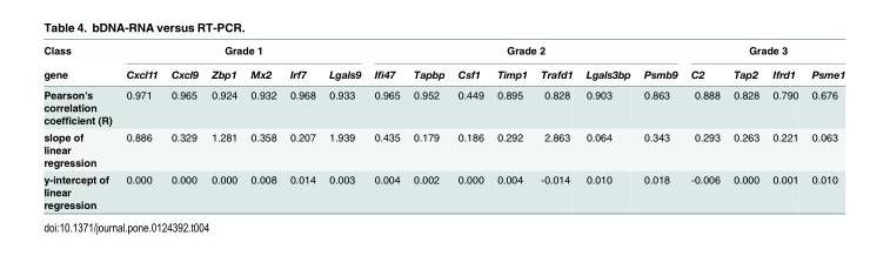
<table><thead><tr><td rowspan="2">Class gene</td><td colspan="6">Grade 1</td><td colspan="7">Grade 2</td><td colspan="4">Grade 3</td></tr><tr><td>Cxcl11</td><td>Cxcl9</td><td>Zbp1</td><td>Mx2</td><td>Irf7</td><td>Lgals9</td><td>Ifi47</td><td>Tapbp</td><td>Csf1</td><td>Timp1</td><td>Trafd1</td><td>Lgals3bp</td><td>Psmb9</td><td>C2</td><td>Tap2</td><td>Ifrd1</td><td>Psme1</td></tr></thead><tbody><tr><td>Pearson&#x27;s correlation coefficient (R)</td><td>0.971</td><td>0.965</td><td>0.924</td><td>0.932</td><td>0.968</td><td>0.933</td><td>0.965</td><td>0.952</td><td>0.449</td><td>0.895</td><td>0.828</td><td>0.903</td><td>0.863</td><td>0.888</td><td>0.828</td><td>0.790</td><td>0.676</td></tr><tr><td>slope of linear regression</td><td>0.886</td><td>0.329</td><td>1.281</td><td>0.358</td><td>0.207</td><td>1.939</td><td>0.435</td><td>0.179</td><td>0.186</td><td>0.292</td><td>2.863</td><td>0.064</td><td>0.343</td><td>0.293</td><td>0.263</td><td>0.221</td><td>0.063</td></tr><tr><td>y-intercept of linear regression</td><td>0.000</td><td>0.000</td><td>0.000</td><td>0.008</td><td>0.014</td><td>0.003</td><td>0.004</td><td>0.002</td><td>0.000</td><td>0.004</td><td>-0.014</td><td>0.010</td><td>0.018</td><td>-0.006</td><td>0.000</td><td>0.001</td><td>0.010</td></tr></tbody></table>